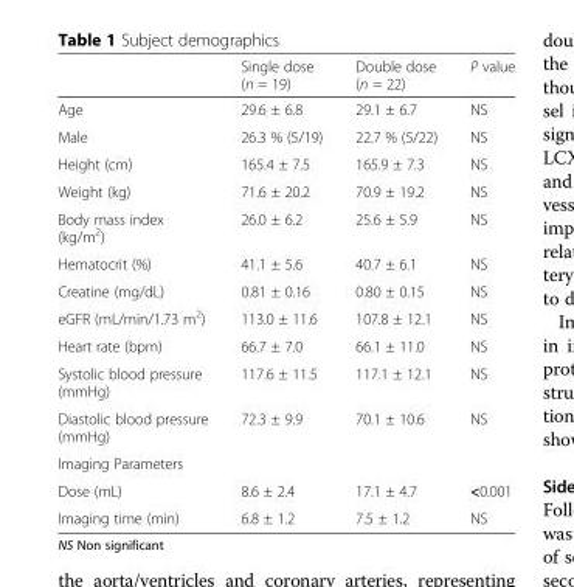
<table><thead><tr><td></td><td>Single dose (n = 19)</td><td>Double dose (n = 22)</td><td>P value</td></tr></thead><tbody><tr><td>Age</td><td>29.6 ± 6.8</td><td>29.1 ± 6.7</td><td>NS</td></tr><tr><td>Male</td><td>26.3 % (5/19)</td><td>22.7 % (5/22)</td><td>NS</td></tr><tr><td>Height (cm)</td><td>165.4 ± 7.5</td><td>165.9 ± 7.3</td><td>NS</td></tr><tr><td>Weight (kg)</td><td>71.6 ± 20.2</td><td>70.9 ± 19.2</td><td>NS</td></tr><tr><td>Body mass index (kg/m<sup>2</sup>)</td><td>26.0 ± 6.2</td><td>25.6 ± 5.9</td><td>NS</td></tr><tr><td>Hematocrit (%)</td><td>41.1 ± 5.6</td><td>40.7 ± 6.1</td><td>NS</td></tr><tr><td>Creatine (mg/dL)</td><td>0.81 ± 0.16</td><td>0.80 ± 0.15</td><td>NS</td></tr><tr><td>eGFR (mL/min/1.73 m<sup>2</sup>)</td><td>113.0 ± 11.6</td><td>107.8 ± 12.1</td><td>NS</td></tr><tr><td>Heart rate (bpm)</td><td>66.7 ± 7.0</td><td>66.1 ± 11.0</td><td>NS</td></tr><tr><td>Systolic blood pressure (mmHg)</td><td>117.6 ± 11.5</td><td>117.1 ± 12.1</td><td>NS</td></tr><tr><td>Diastolic blood pressure (mmHg)</td><td>72.3 ± 9.9</td><td>70.1 ± 10.6</td><td>NS</td></tr><tr><td colspan="4">Imaging Parameters</td></tr><tr><td>Dose (mL)</td><td>8.6 ± 2.4</td><td>17.1 ± 4.7</td><td>&lt;0.001</td></tr><tr><td>Imaging time (min)</td><td>6.8 ± 1.2</td><td>7.5 ± 1.2</td><td>NS</td></tr></tbody></table>